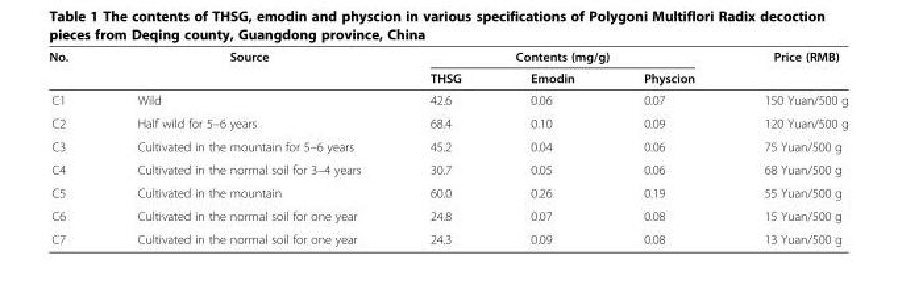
<table><thead><tr><td rowspan="2">No.</td><td rowspan="2">Source</td><td colspan="3">Contents (mg/g)</td><td rowspan="2">Price (RMB)</td></tr><tr><td>THSG</td><td>Emodin</td><td>Physcion</td></tr></thead><tbody><tr><td>C1</td><td>Wild</td><td>42.6</td><td>0.06</td><td>0.07</td><td>150 Yuan/500 g</td></tr><tr><td>C2</td><td>Half wild for 5–6 years</td><td>68.4</td><td>0.10</td><td>0.09</td><td>120 Yuan/500 g</td></tr><tr><td>C3</td><td>Cultivated in the mountain for 5–6 years</td><td>45.2</td><td>0.04</td><td>0.06</td><td>75 Yuan/500 g</td></tr><tr><td>C4</td><td>Cultivated in the normal soil for 3–4 years</td><td>30.7</td><td>0.05</td><td>0.06</td><td>68 Yuan/500 g</td></tr><tr><td>C5</td><td>Cultivated in the mountain</td><td>60.0</td><td>0.26</td><td>0.19</td><td>55 Yuan/500 g</td></tr><tr><td>C6</td><td>Cultivated in the normal soil for one year</td><td>24.8</td><td>0.07</td><td>0.08</td><td>15 Yuan/500 g</td></tr><tr><td>C7</td><td>Cultivated in the normal soil for one year</td><td>24.3</td><td>0.09</td><td>0.08</td><td>13 Yuan/500 g</td></tr></tbody></table>